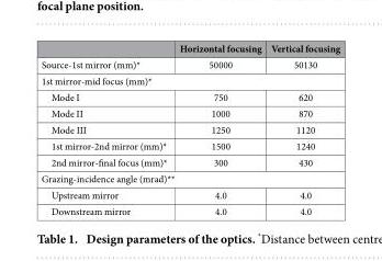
<table><thead><tr><td></td><td>Horizontal focusing</td><td>Vertical focusing</td></tr></thead><tbody><tr><td>Source-1st mirror (mm)*</td><td>50000</td><td>50130</td></tr><tr><td colspan="3">1st mirror-mid focus (mm)*</td></tr><tr><td>Mode I</td><td>750</td><td>620</td></tr><tr><td>Mode II</td><td>1000</td><td>870</td></tr><tr><td>Mode III</td><td>1250</td><td>1120</td></tr><tr><td>1st mirror-2nd mirror (mm)*</td><td>1500</td><td>1240</td></tr><tr><td>2nd mirror-final focus (mm)*</td><td>300</td><td>430</td></tr><tr><td colspan="3">Grazing-incidence angle (mrad)**</td></tr><tr><td>Upstream mirror</td><td>4.0</td><td>4.0</td></tr><tr><td>Downstream mirror</td><td>4.0</td><td>4.0</td></tr></tbody></table>